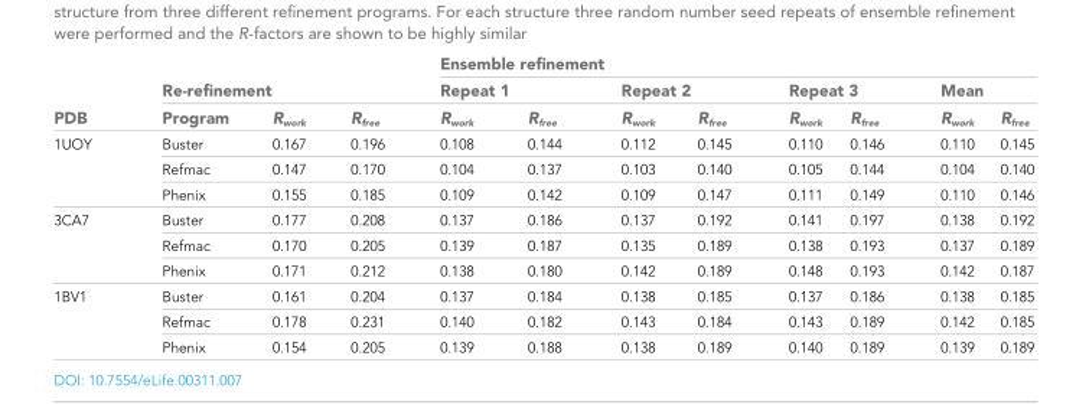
<table><thead><tr><td rowspan="3">PDB</td><td rowspan="2" colspan="3">Re-refinement</td><td colspan="8">Ensemble refinement</td></tr><tr><td colspan="2">Repeat 1</td><td colspan="2">Repeat 2</td><td colspan="2">Repeat 3</td><td colspan="2">Mean</td></tr><tr><td>Program</td><td>R<sub>work</sub></td><td>R<sub>free</sub></td><td>R<sub>work</sub></td><td>R<sub>free</sub></td><td>R<sub>work</sub></td><td>R<sub>free</sub></td><td>R<sub>work</sub></td><td>R<sub>free</sub></td><td>R<sub>work</sub></td><td>R<sub>free</sub></td></tr></thead><tbody><tr><td rowspan="3">1UOY</td><td>Buster</td><td>0.167</td><td>0.196</td><td>0.108</td><td>0.144</td><td>0.112</td><td>0.145</td><td>0.110</td><td>0.146</td><td>0.110</td><td>0.145</td></tr><tr><td>Refmac</td><td>0.147</td><td>0.170</td><td>0.104</td><td>0.137</td><td>0.103</td><td>0.140</td><td>0.105</td><td>0.144</td><td>0.104</td><td>0.140</td></tr><tr><td>Phenix</td><td>0.155</td><td>0.185</td><td>0.109</td><td>0.142</td><td>0.109</td><td>0.147</td><td>0.111</td><td>0.149</td><td>0.110</td><td>0.146</td></tr><tr><td rowspan="3">3CA7</td><td>Buster</td><td>0.177</td><td>0.208</td><td>0.137</td><td>0.186</td><td>0.137</td><td>0.192</td><td>0.141</td><td>0.197</td><td>0.138</td><td>0.192</td></tr><tr><td>Refmac</td><td>0.170</td><td>0.205</td><td>0.139</td><td>0.187</td><td>0.135</td><td>0.189</td><td>0.138</td><td>0.193</td><td>0.137</td><td>0.189</td></tr><tr><td>Phenix</td><td>0.171</td><td>0.212</td><td>0.138</td><td>0.180</td><td>0.142</td><td>0.189</td><td>0.148</td><td>0.193</td><td>0.142</td><td>0.187</td></tr><tr><td rowspan="3">1BV1</td><td>Buster</td><td>0.161</td><td>0.204</td><td>0.137</td><td>0.184</td><td>0.138</td><td>0.185</td><td>0.137</td><td>0.186</td><td>0.138</td><td>0.185</td></tr><tr><td>Refmac</td><td>0.178</td><td>0.231</td><td>0.140</td><td>0.182</td><td>0.143</td><td>0.184</td><td>0.143</td><td>0.189</td><td>0.142</td><td>0.185</td></tr><tr><td>Phenix</td><td>0.154</td><td>0.205</td><td>0.139</td><td>0.188</td><td>0.138</td><td>0.189</td><td>0.140</td><td>0.189</td><td>0.139</td><td>0.189</td></tr></tbody></table>